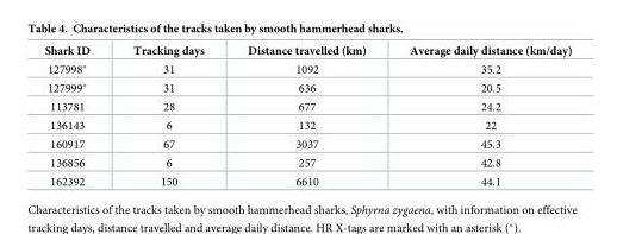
<table><thead><tr><td>Shark ID</td><td>Tracking days</td><td>Distance travelled (km)</td><td>Average daily distance (km/day)</td></tr></thead><tbody><tr><td>127998*</td><td>31</td><td>1092</td><td>35.2</td></tr><tr><td>127999*</td><td>31</td><td>636</td><td>20.5</td></tr><tr><td>113781</td><td>28</td><td>677</td><td>24.2</td></tr><tr><td>136143</td><td>6</td><td>132</td><td>22</td></tr><tr><td>160917</td><td>67</td><td>3037</td><td>45.3</td></tr><tr><td>136856</td><td>6</td><td>257</td><td>42.8</td></tr><tr><td>162392</td><td>150</td><td>6610</td><td>44.1</td></tr></tbody></table>